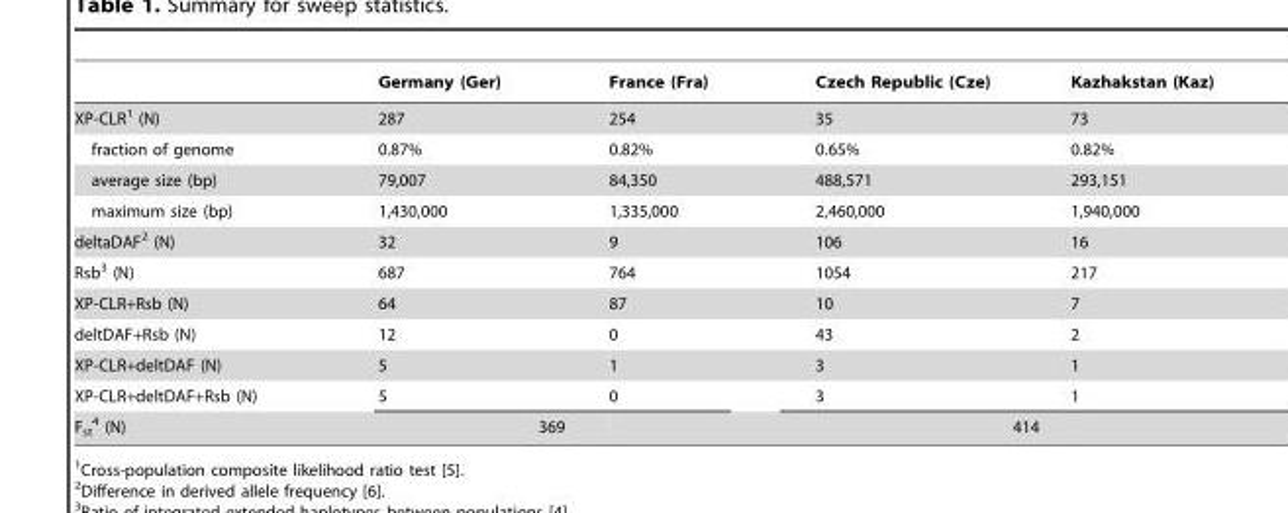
<table><thead><tr><td></td><td>Germany (Ger)</td><td>France (Fra)</td><td>Czech Republic (Cze)</td><td>Kazhakstan (Kaz)</td></tr></thead><tbody><tr><td>XP-CLR<sup>1</sup> (N)</td><td>287</td><td>254</td><td>35</td><td>73</td></tr><tr><td>fraction of genome</td><td>0.87%</td><td>0.82%</td><td>0.65%</td><td>0.82%</td></tr><tr><td>average size (bp)</td><td>79,007</td><td>84,350</td><td>488,571</td><td>293,151</td></tr><tr><td>maximum size (bp)</td><td>1,430,000</td><td>1,335,000</td><td>2,460,000</td><td>1,940,000</td></tr><tr><td>deltaDAF<sup>2</sup> (N)</td><td>32</td><td>9</td><td>106</td><td>16</td></tr><tr><td>Rsb<sup>3</sup> (N)</td><td>687</td><td>764</td><td>1054</td><td>217</td></tr><tr><td>XP-CLR+Rsb (N)</td><td>64</td><td>87</td><td>10</td><td>7</td></tr><tr><td>deltDAF+Rsb (N)</td><td>12</td><td>0</td><td>43</td><td>2</td></tr><tr><td>XP-CLR+deltDAF (N)</td><td>5</td><td>1</td><td>3</td><td>1</td></tr><tr><td>XP-CLR+deltDAF+Rsb (N)</td><td>5</td><td>0</td><td>3</td><td>1</td></tr><tr><td>F<sub>st</sub> 4 (N)</td><td>369</td><td></td><td>414</td><td></td></tr></tbody></table>